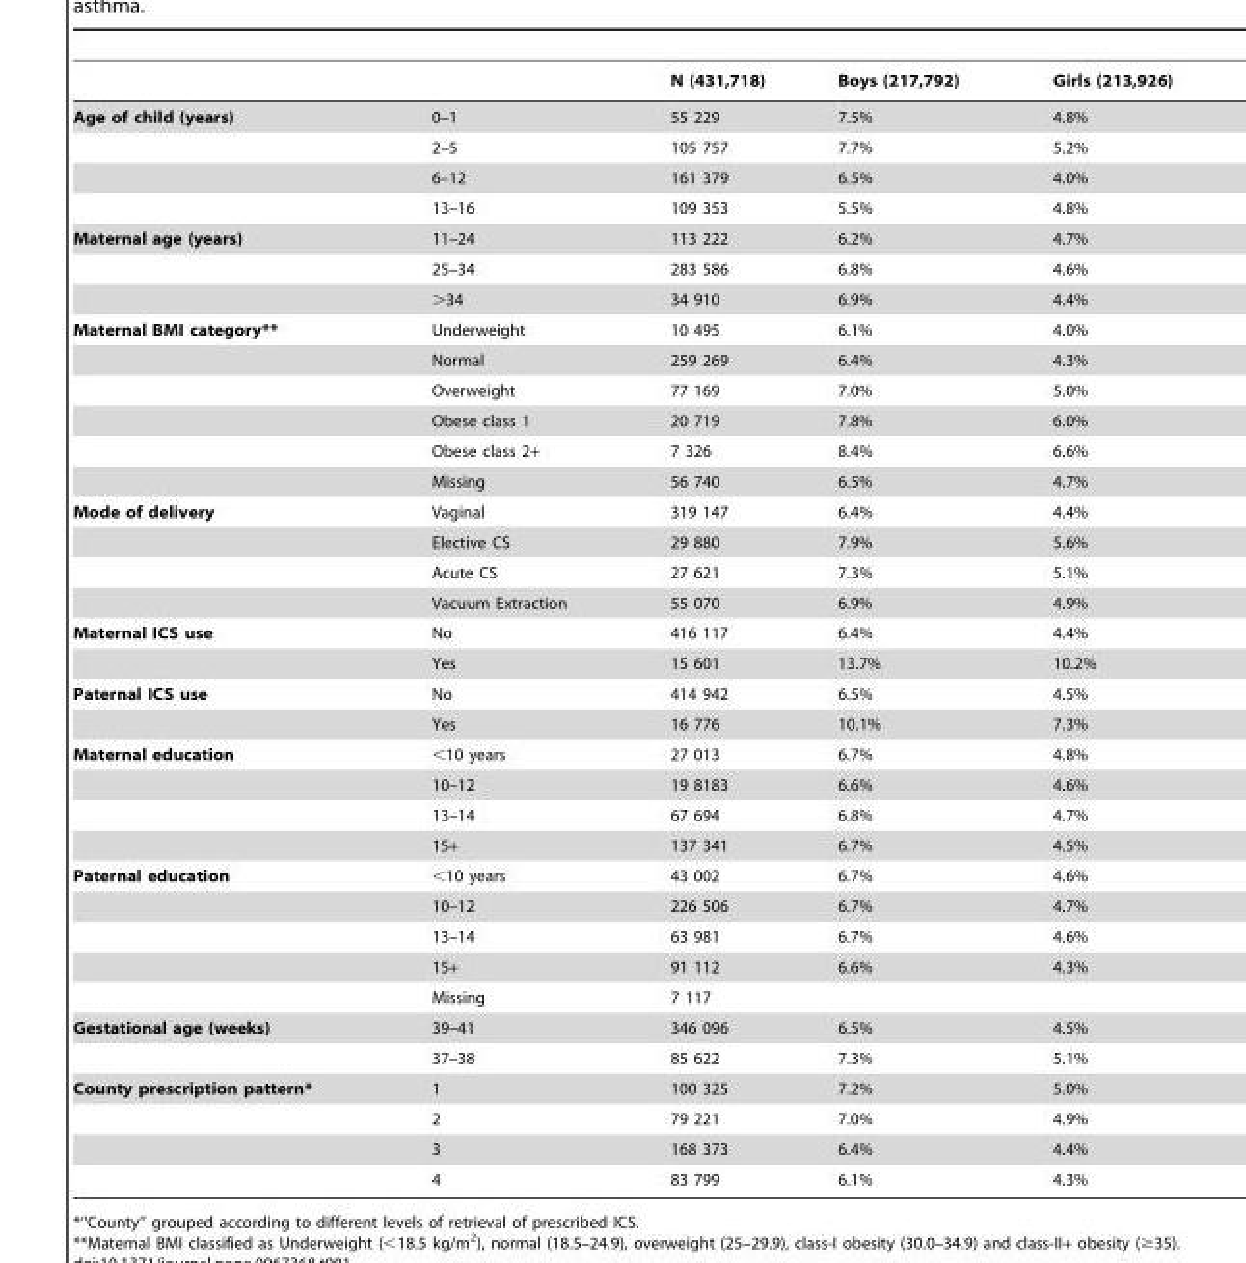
<table><thead><tr><td></td><td></td><td>N (431,718)</td><td>Boys (217,792)</td><td>Girls (213,926)</td></tr></thead><tbody><tr><td rowspan="4">Age of child (years)</td><td>0–1</td><td>55 229</td><td>7.5%</td><td>4.8%</td></tr><tr><td>2–5</td><td>105 757</td><td>7.7%</td><td>5.2%</td></tr><tr><td>6–12</td><td>161 379</td><td>6.5%</td><td>4.0%</td></tr><tr><td>13–16</td><td>109 353</td><td>5.5%</td><td>4.8%</td></tr><tr><td rowspan="3">Maternal age (years)</td><td>11–24</td><td>113 222</td><td>6.2%</td><td>4.7%</td></tr><tr><td>25–34</td><td>283 586</td><td>6.8%</td><td>4.6%</td></tr><tr><td>&gt;34</td><td>34 910</td><td>6.9%</td><td>4.4%</td></tr><tr><td rowspan="6">Maternal BMI category**</td><td>Underweight</td><td>10 495</td><td>6.1%</td><td>4.0%</td></tr><tr><td>Normal</td><td>259 269</td><td>6.4%</td><td>4.3%</td></tr><tr><td>Overweight</td><td>77 169</td><td>7.0%</td><td>5.0%</td></tr><tr><td>Obese class 1</td><td>20 719</td><td>7.8%</td><td>6.0%</td></tr><tr><td>Obese class 2+</td><td>7 326</td><td>8.4%</td><td>6.6%</td></tr><tr><td>Missing</td><td>56 740</td><td>6.5%</td><td>4.7%</td></tr><tr><td rowspan="4">Mode of delivery</td><td>Vaginal</td><td>319 147</td><td>6.4%</td><td>4.4%</td></tr><tr><td>Elective CS</td><td>29 880</td><td>7.9%</td><td>5.6%</td></tr><tr><td>Acute CS</td><td>27 621</td><td>7.3%</td><td>5.1%</td></tr><tr><td>Vacuum Extraction</td><td>55 070</td><td>6.9%</td><td>4.9%</td></tr><tr><td rowspan="2">Maternal ICS use</td><td>No</td><td>416 117</td><td>6.4%</td><td>4.4%</td></tr><tr><td>Yes</td><td>15 601</td><td>13.7%</td><td>10.2%</td></tr><tr><td rowspan="2">Paternal ICS use</td><td>No</td><td>414 942</td><td>6.5%</td><td>4.5%</td></tr><tr><td>Yes</td><td>16 776</td><td>10.1%</td><td>7.3%</td></tr><tr><td rowspan="4">Maternal education</td><td>&lt;10 years</td><td>27 013</td><td>6.7%</td><td>4.8%</td></tr><tr><td>10–12</td><td>19 8183</td><td>6.6%</td><td>4.6%</td></tr><tr><td>13–14</td><td>67 694</td><td>6.8%</td><td>4.7%</td></tr><tr><td>15+</td><td>137 341</td><td>6.7%</td><td>4.5%</td></tr><tr><td rowspan="5">Paternal education</td><td>&lt;10 years</td><td>43 002</td><td>6.7%</td><td>4.6%</td></tr><tr><td>10–12</td><td>226 506</td><td>6.7%</td><td>4.7%</td></tr><tr><td>13–14</td><td>63 981</td><td>6.7%</td><td>4.6%</td></tr><tr><td>15+</td><td>91 112</td><td>6.6%</td><td>4.3%</td></tr><tr><td>Missing</td><td>7 117</td><td></td><td></td></tr><tr><td rowspan="2">Gestational age (weeks)</td><td>39–41</td><td>346 096</td><td>6.5%</td><td>4.5%</td></tr><tr><td>37–38</td><td>85 622</td><td>7.3%</td><td>5.1%</td></tr><tr><td rowspan="4">County prescription pattern*</td><td>1</td><td>100 325</td><td>7.2%</td><td>5.0%</td></tr><tr><td>2</td><td>79 221</td><td>7.0%</td><td>4.9%</td></tr><tr><td>3</td><td>168 373</td><td>6.4%</td><td>4.4%</td></tr><tr><td>4</td><td>83 799</td><td>6.1%</td><td>4.3%</td></tr></tbody></table>